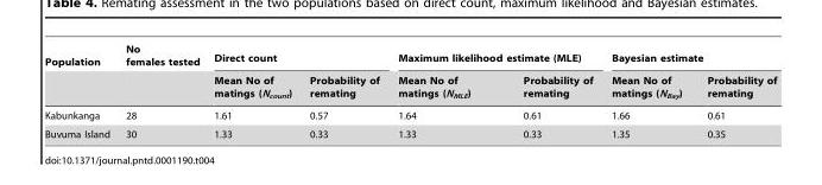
<table><thead><tr><td rowspan="2">Population</td><td rowspan="2">No females tested</td><td colspan="2">Direct count</td><td colspan="2">Maximum likelihood estimate (MLE)</td><td colspan="2">Bayesian estimate</td></tr><tr><td>Mean No of matings (N<sub>count</sub>)</td><td>Probability of remating</td><td>Mean No of matings (N<sub>MLE</sub>)</td><td>Probability of remating</td><td>Mean No of matings (N<sub>Bay</sub>)</td><td>Probability of remating</td></tr></thead><tbody><tr><td>Kabunkanga</td><td>28</td><td>1.61</td><td>0.57</td><td>1.64</td><td>0.61</td><td>1.66</td><td>0.61</td></tr><tr><td>Buvuma Island</td><td>30</td><td>1.33</td><td>0.33</td><td>1.33</td><td>0.33</td><td>1.35</td><td>0.35</td></tr></tbody></table>